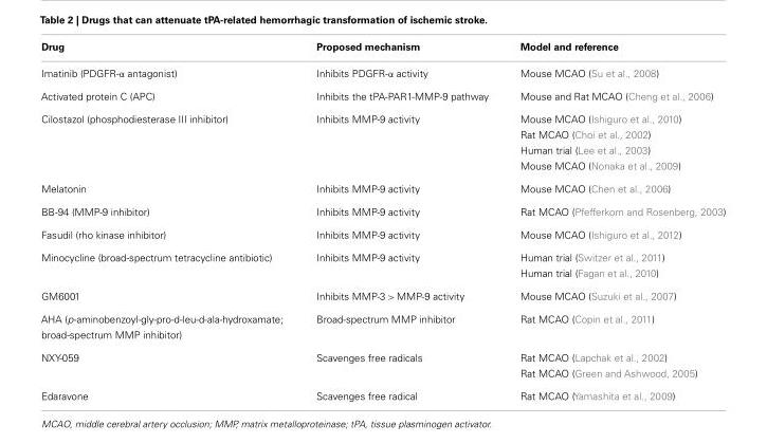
<table><thead><tr><td>Drug</td><td>Proposed mechanism</td><td>Model and reference</td></tr></thead><tbody><tr><td>Imatinib (PDGFR-α antagonist)</td><td>Inhibits PDGFR-α activity</td><td>Mouse MCAO (Su et al., 2008)</td></tr><tr><td>Activated protein C (APC)</td><td>Inhibits the tPA-PAR1-MMP-9 pathway</td><td>Mouse and Rat MCAO (Cheng et al., 2006)</td></tr><tr><td rowspan="4">Cilostazol (phosphodiesterase III inhibitor)</td><td>Inhibits MMP-9 activity</td><td>Mouse MCAO (Ishiguro et al., 2010)</td></tr><tr><td></td><td>Rat MCAO (Choi et al., 2002)</td></tr><tr><td></td><td>Human trial (Lee et al., 2003)</td></tr><tr><td></td><td>Mouse MCAO (Nonaka et al., 2009)</td></tr><tr><td>Melatonin</td><td>Inhibits MMP-9 activity</td><td>Mouse MCAO (Chen et al., 2006)</td></tr><tr><td>BB-94 (MMP-9 inhibitor)</td><td>Inhibits MMP-9 activity</td><td>Rat MCAO (Pfefferkorn and Rosenberg, 2003)</td></tr><tr><td>Fasudil (rho kinase inhibitor)</td><td>Inhibits MMP-9 activity</td><td>Mouse MCAO (Ishiguro et al., 2012)</td></tr><tr><td rowspan="2">Minocycline (broad-spectrum tetracycline antibiotic)</td><td>Inhibits MMP-9 activity</td><td>Human trial (Switzer et al., 2011)</td></tr><tr><td></td><td>Human trial (Fagan et al., 2010)</td></tr><tr><td>GM6001</td><td>Inhibits MMP-3 &gt; MMP-9 activity</td><td>Mouse MCAO (Suzuki et al., 2007)</td></tr><tr><td>AHA (p-aminobenzoyl-gly-pro-d-leu-d-ala-hydroxamate; broad-spectrum MMP inhibitor)</td><td>Broad-spectrum MMP inhibitor</td><td>Rat MCAO (Copin et al., 2011)</td></tr><tr><td rowspan="2">NXY-059</td><td>Scavenges free radicals</td><td>Rat MCAO (Lapchak et al., 2002)</td></tr><tr><td></td><td>Rat MCAO (Green and Ashwood, 2005)</td></tr><tr><td>Edaravone</td><td>Scavenges free radical</td><td>Rat MCAO (Yamashita et al., 2009)</td></tr></tbody></table>